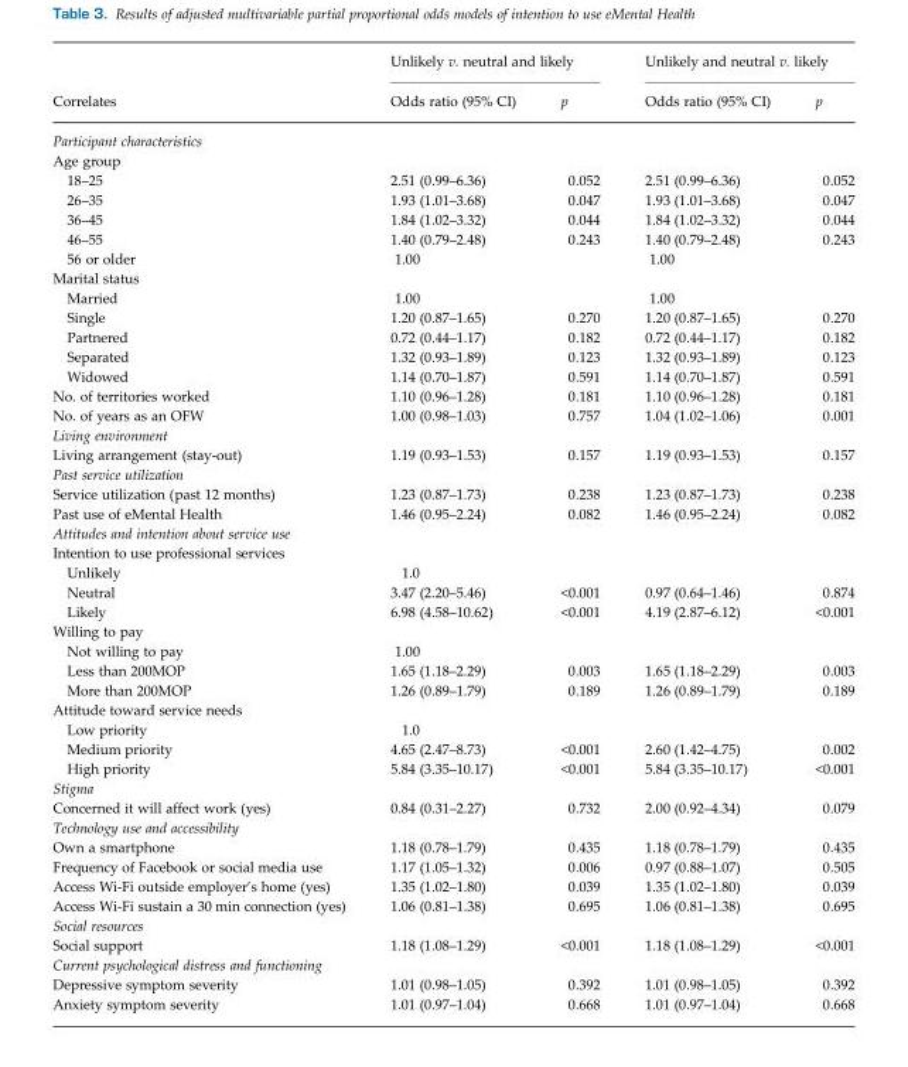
<table><thead><tr><td rowspan="2">Correlates</td><td colspan="2">Unlikely v. neutral and likely</td><td colspan="2">Unlikely and neutral v. likely</td></tr><tr><td>Odds ratio (95% CI)</td><td>p</td><td>Odds ratio (95% CI)</td><td>p</td></tr></thead><tbody><tr><td colspan="5">Participant characteristics</td></tr><tr><td colspan="5">Age group</td></tr><tr><td>18–25</td><td>2.51 (0.99–6.36)</td><td>0.052</td><td>2.51 (0.99–6.36)</td><td>0.052</td></tr><tr><td>26–35</td><td>1.93 (1.01–3.68)</td><td>0.047</td><td>1.93 (1.01–3.68)</td><td>0.047</td></tr><tr><td>36–45</td><td>1.84 (1.02–3.32)</td><td>0.044</td><td>1.84 (1.02–3.32)</td><td>0.044</td></tr><tr><td>46–55</td><td>1.40 (0.79–2.48)</td><td>0.243</td><td>1.40 (0.79–2.48)</td><td>0.243</td></tr><tr><td>56 or older</td><td>1.00</td><td></td><td>1.00</td><td></td></tr><tr><td colspan="5">Marital status</td></tr><tr><td>Married</td><td>1.00</td><td></td><td>1.00</td><td></td></tr><tr><td>Single</td><td>1.20 (0.87–1.65)</td><td>0.270</td><td>1.20 (0.87–1.65)</td><td>0.270</td></tr><tr><td>Partnered</td><td>0.72 (0.44–1.17)</td><td>0.182</td><td>0.72 (0.44–1.17)</td><td>0.182</td></tr><tr><td>Separated</td><td>1.32 (0.93–1.89)</td><td>0.123</td><td>1.32 (0.93–1.89)</td><td>0.123</td></tr><tr><td>Widowed</td><td>1.14 (0.70–1.87)</td><td>0.591</td><td>1.14 (0.70–1.87)</td><td>0.591</td></tr><tr><td>No. of territories worked</td><td>1.10 (0.96–1.28)</td><td>0.181</td><td>1.10 (0.96–1.28)</td><td>0.181</td></tr><tr><td>No. of years as an OFW</td><td>1.00 (0.98–1.03)</td><td>0.757</td><td>1.04 (1.02–1.06)</td><td>0.001</td></tr><tr><td colspan="5">Living environment</td></tr><tr><td>Living arrangement (stay-out)</td><td>1.19 (0.93–1.53)</td><td>0.157</td><td>1.19 (0.93–1.53)</td><td>0.157</td></tr><tr><td colspan="5">Past service utilization</td></tr><tr><td>Service utilization (past 12 months)</td><td>1.23 (0.87–1.73)</td><td>0.238</td><td>1.23 (0.87–1.73)</td><td>0.238</td></tr><tr><td>Past use of eMental Health</td><td>1.46 (0.95–2.24)</td><td>0.082</td><td>1.46 (0.95–2.24)</td><td>0.082</td></tr><tr><td colspan="5">Attitudes and intention about service use</td></tr><tr><td colspan="5">Intention to use professional services</td></tr><tr><td>Unlikely</td><td>1.0</td><td></td><td></td><td></td></tr><tr><td>Neutral</td><td>3.47 (2.20–5.46)</td><td>&lt;0.001</td><td>0.97 (0.64–1.46)</td><td>0.874</td></tr><tr><td>Likely</td><td>6.98 (4.58–10.62)</td><td>&lt;0.001</td><td>4.19 (2.87–6.12)</td><td>&lt;0.001</td></tr><tr><td colspan="5">Willing to pay</td></tr><tr><td>Not willing to pay</td><td>1.00</td><td></td><td></td><td></td></tr><tr><td>Less than 200MOP</td><td>1.65 (1.18–2.29)</td><td>0.003</td><td>1.65 (1.18–2.29)</td><td>0.003</td></tr><tr><td>More than 200MOP</td><td>1.26 (0.89–1.79)</td><td>0.189</td><td>1.26 (0.89–1.79)</td><td>0.189</td></tr><tr><td colspan="5">Attitude toward service needs</td></tr><tr><td>Low priority</td><td>1.0</td><td></td><td></td><td></td></tr><tr><td>Medium priority</td><td>4.65 (2.47–8.73)</td><td>&lt;0.001</td><td>2.60 (1.42–4.75)</td><td>0.002</td></tr><tr><td>High priority</td><td>5.84 (3.35–10.17)</td><td>&lt;0.001</td><td>5.84 (3.35–10.17)</td><td>&lt;0.001</td></tr><tr><td colspan="5">Stigma</td></tr><tr><td>Concerned it will affect work (yes)</td><td>0.84 (0.31–2.27)</td><td>0.732</td><td>2.00 (0.92–4.34)</td><td>0.079</td></tr><tr><td colspan="5">Technology use and accessibility</td></tr><tr><td>Own a smartphone</td><td>1.18 (0.78–1.79)</td><td>0.435</td><td>1.18 (0.78–1.79)</td><td>0.435</td></tr><tr><td>Frequency of Facebook or social media use</td><td>1.17 (1.05–1.32)</td><td>0.006</td><td>0.97 (0.88–1.07)</td><td>0.505</td></tr><tr><td>Access Wi-Fi outside employer’s home (yes)</td><td>1.35 (1.02–1.80)</td><td>0.039</td><td>1.35 (1.02–1.80)</td><td>0.039</td></tr><tr><td>Access Wi-Fi sustain a 30 min connection (yes)</td><td>1.06 (0.81–1.38)</td><td>0.695</td><td>1.06 (0.81–1.38)</td><td>0.695</td></tr><tr><td colspan="5">Social resources</td></tr><tr><td>Social support</td><td>1.18 (1.08–1.29)</td><td>&lt;0.001</td><td>1.18 (1.08–1.29)</td><td>&lt;0.001</td></tr><tr><td colspan="5">Current psychological distress and functioning</td></tr><tr><td>Depressive symptom severity</td><td>1.01 (0.98–1.05)</td><td>0.392</td><td>1.01 (0.98–1.05)</td><td>0.392</td></tr><tr><td>Anxiety symptom severity</td><td>1.01 (0.97–1.04)</td><td>0.668</td><td>1.01 (0.97–1.04)</td><td>0.668</td></tr></tbody></table>